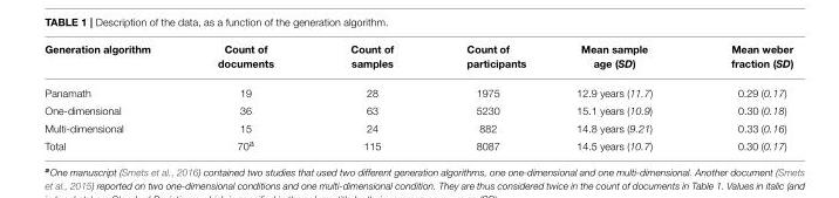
<table><thead><tr><td>Generation algorithm</td><td>Count of documents</td><td>Count of samples</td><td>Count of participants</td><td>Mean sample age (SD)</td><td>Mean weber fraction (SD)</td></tr></thead><tbody><tr><td>Panamath</td><td>19</td><td>28</td><td>1975</td><td>12.9 years (11.7)</td><td>0.29 (0.17)</td></tr><tr><td>One-dimensional</td><td>36</td><td>63</td><td>5230</td><td>15.1 years (10.9)</td><td>0.30 (0.18)</td></tr><tr><td>Multi-dimensional</td><td>15</td><td>24</td><td>882</td><td>14.8 years (9.21)</td><td>0.33 (0.16)</td></tr><tr><td>Total</td><td>70<sup>a</sup></td><td>115</td><td>8087</td><td>14.5 years (10.7)</td><td>0.30 (0.17)</td></tr></tbody></table>